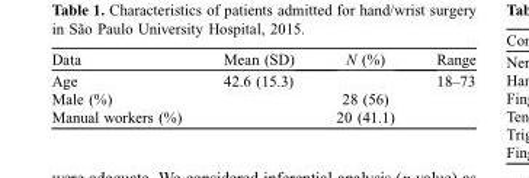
<table><thead><tr><td>Data</td><td>Mean (SD)</td><td>N (%)</td><td>Range</td></tr></thead><tbody><tr><td>Age</td><td>42.6 (15.3)</td><td></td><td>18–73</td></tr><tr><td>Male (%)</td><td></td><td>28 (56)</td><td></td></tr><tr><td>Manual workers (%)</td><td></td><td>20 (41.1)</td><td></td></tr></tbody></table>